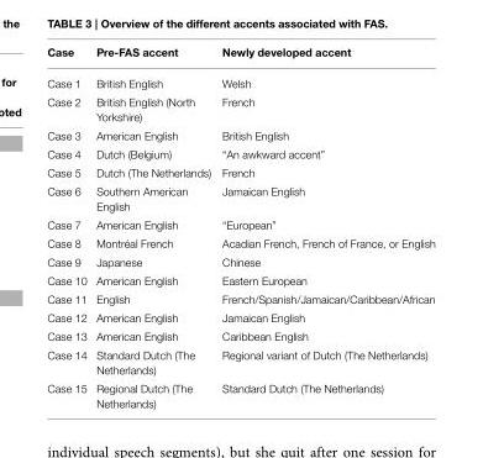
<table><thead><tr><td>Case</td><td>Pre-FAS accent</td><td>Newly developed accent</td></tr></thead><tbody><tr><td>Case 1</td><td>British English</td><td>Welsh</td></tr><tr><td>Case 2</td><td>British English (North Yorkshire)</td><td>French</td></tr><tr><td>Case 3</td><td>American English</td><td>British English</td></tr><tr><td>Case 4</td><td>Dutch (Belgium)</td><td>“An awkward accent”</td></tr><tr><td>Case 5</td><td>Dutch (The Netherlands)</td><td>French</td></tr><tr><td>Case 6</td><td>Southern American English</td><td>Jamaican English</td></tr><tr><td>Case 7</td><td>American English</td><td>“European”</td></tr><tr><td>Case 8</td><td>Montréal French</td><td>Acadian French, French of France, or English</td></tr><tr><td>Case 9</td><td>Japanese</td><td>Chinese</td></tr><tr><td>Case 10</td><td>American English</td><td>Eastern European</td></tr><tr><td>Case 11</td><td>English</td><td>French/Spanish/Jamaican/Caribbean/African</td></tr><tr><td>Case 12</td><td>American English</td><td>Jamaican English</td></tr><tr><td>Case 13</td><td>American English</td><td>Caribbean English</td></tr><tr><td>Case 14</td><td>Standard Dutch (The Netherlands)</td><td>Regional variant of Dutch (The Netherlands)</td></tr><tr><td>Case 15</td><td>Regional Dutch (The Netherlands)</td><td>Standard Dutch (The Netherlands)</td></tr></tbody></table>